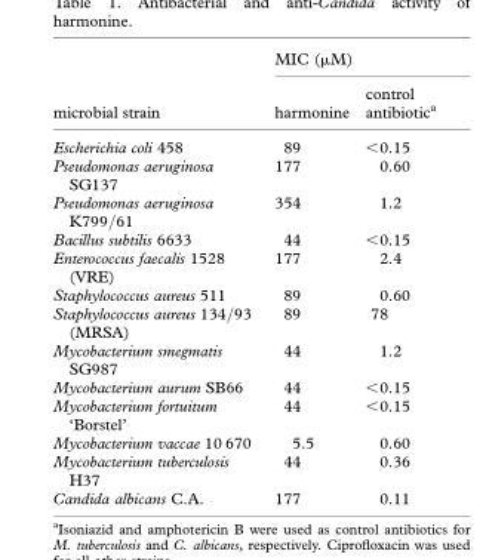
<table><thead><tr><td rowspan="2">microbial strain</td><td colspan="2">MIC (µM)</td></tr><tr><td>harmonine</td><td>control antibiotic<sup>a</sup></td></tr></thead><tbody><tr><td>Escherichia coli 458</td><td>89</td><td>&lt;0.15</td></tr><tr><td>Pseudomonas aeruginosa SG137</td><td>177</td><td>0.60</td></tr><tr><td>Pseudomonas aeruginosa K799/61</td><td>354</td><td>1.2</td></tr><tr><td>Bacillus subtilis 6633</td><td>44</td><td>&lt;0.15</td></tr><tr><td>Enterococcus faecalis 1528 (VRE)</td><td>177</td><td>2.4</td></tr><tr><td>Staphylococcus aureus 511</td><td>89</td><td>0.60</td></tr><tr><td>Staphylococcus aureus 134/93 (MRSA)</td><td>89</td><td>78</td></tr><tr><td>Mycobacterium smegmatis SG987</td><td>44</td><td>1.2</td></tr><tr><td>Mycobacterium aurum SB66</td><td>44</td><td>&lt;0.15</td></tr><tr><td>Mycobacterium fortuitum ‘Borstel’</td><td>44</td><td>&lt;0.15</td></tr><tr><td>Mycobacterium vaccae 10 670</td><td>5.5</td><td>0.60</td></tr><tr><td>Mycobacterium tuberculosis H37</td><td>44</td><td>0.36</td></tr><tr><td>Candida albicans C.A.</td><td>177</td><td>0.11</td></tr></tbody></table>